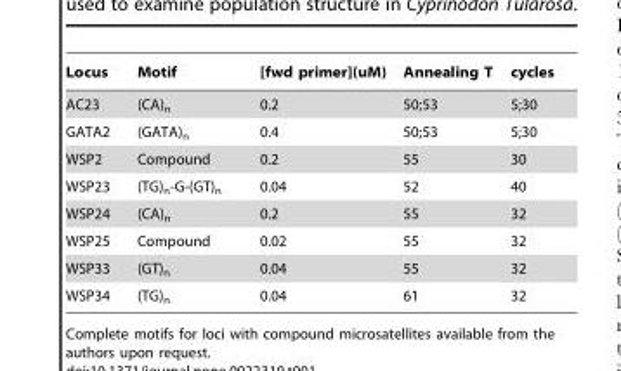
<table><thead><tr><td>Locus</td><td>Motif</td><td>[fwd primer](uM)</td><td>Annealing T</td><td>cycles</td></tr></thead><tbody><tr><td>AC23</td><td>(CA)<sub>n</sub></td><td>0.2</td><td>50;53</td><td>5;30</td></tr><tr><td>GATA2</td><td>(GATA)<sub>n</sub></td><td>0.4</td><td>50;53</td><td>5;30</td></tr><tr><td>WSP2</td><td>Compound</td><td>0.2</td><td>55</td><td>30</td></tr><tr><td>WSP23</td><td>(TG)<sub>n</sub>-G-(GT)<sub>n</sub></td><td>0.04</td><td>52</td><td>40</td></tr><tr><td>WSP24</td><td>(CA)<sub>n</sub></td><td>0.2</td><td>55</td><td>32</td></tr><tr><td>WSP25</td><td>Compound</td><td>0.02</td><td>55</td><td>32</td></tr><tr><td>WSP33</td><td>(GT)<sub>n</sub></td><td>0.04</td><td>55</td><td>32</td></tr><tr><td>WSP34</td><td>(TG)<sub>n</sub></td><td>0.04</td><td>61</td><td>32</td></tr></tbody></table>